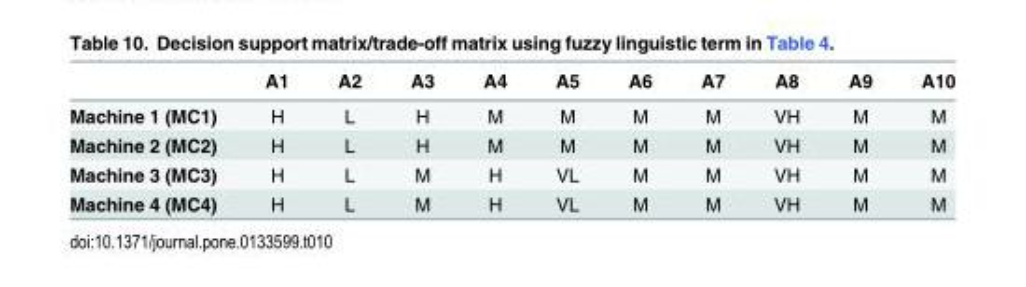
<table><thead><tr><td></td><td>A1</td><td>A2</td><td>A3</td><td>A4</td><td>A5</td><td>A6</td><td>A7</td><td>A8</td><td>A9</td><td>A10</td></tr></thead><tbody><tr><td>Machine 1 (MC1)</td><td>H</td><td>L</td><td>H</td><td>M</td><td>M</td><td>M</td><td>M</td><td>VH</td><td>M</td><td>M</td></tr><tr><td>Machine 2 (MC2)</td><td>H</td><td>L</td><td>H</td><td>M</td><td>M</td><td>M</td><td>M</td><td>VH</td><td>M</td><td>M</td></tr><tr><td>Machine 3 (MC3)</td><td>H</td><td>L</td><td>M</td><td>H</td><td>VL</td><td>M</td><td>M</td><td>VH</td><td>M</td><td>M</td></tr><tr><td>Machine 4 (MC4)</td><td>H</td><td>L</td><td>M</td><td>H</td><td>VL</td><td>M</td><td>M</td><td>VH</td><td>M</td><td>M</td></tr></tbody></table>